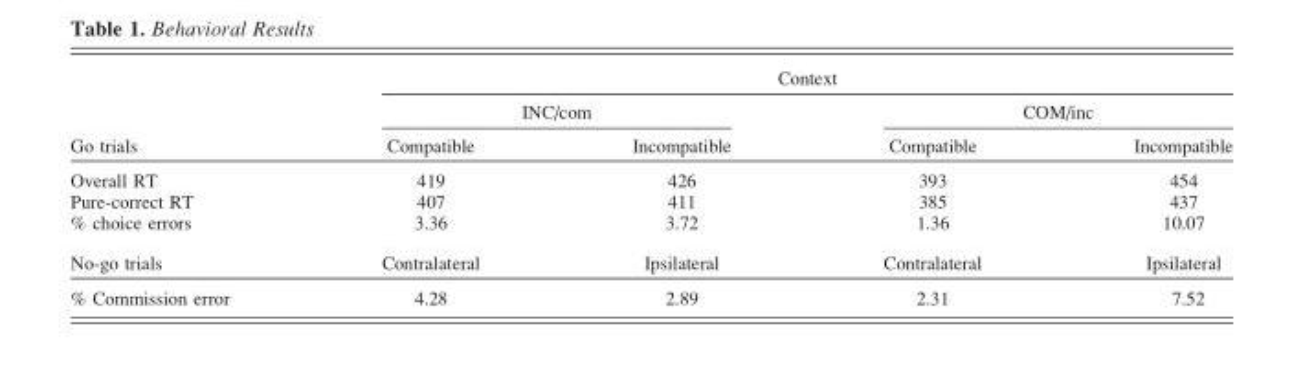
<table><thead><tr><td rowspan="3">Go trials</td><td colspan="4">Context</td></tr><tr><td colspan="2">INC/com</td><td colspan="2">COM/inc</td></tr><tr><td>Compatible</td><td>Incompatible</td><td>Compatible</td><td>Incompatible</td></tr></thead><tbody><tr><td>Overall RT</td><td>419</td><td>426</td><td>393</td><td>454</td></tr><tr><td>Pure-correct RT</td><td>407</td><td>411</td><td>385</td><td>437</td></tr><tr><td>% choice errors</td><td>3.36</td><td>3.72</td><td>1.36</td><td>10.07</td></tr><tr><td>No-go trials</td><td>Contralateral</td><td>Ipsilateral</td><td>Contralateral</td><td>Ipsilateral</td></tr><tr><td>% Commission error</td><td>4.28</td><td>2.89</td><td>2.31</td><td>7.52</td></tr></tbody></table>